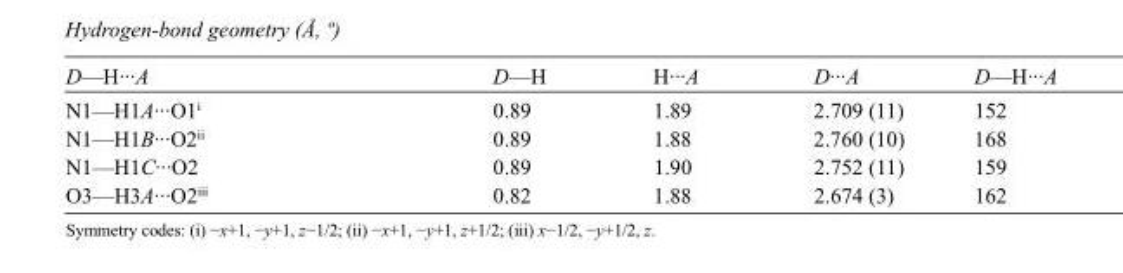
<table><tbody><tr><td>D—H···A</td><td>D—H</td><td>H···A</td><td>D···A</td><td>D—H···A</td></tr><tr><td>N1—H1A···O1<sup>i</sup></td><td>0.89</td><td>1.89</td><td>2.709 (11)</td><td>152</td></tr><tr><td>N1—H1B···O2<sup>ii</sup></td><td>0.89</td><td>1.88</td><td>2.760 (10)</td><td>168</td></tr><tr><td>N1—H1C···O2</td><td>0.89</td><td>1.90</td><td>2.752 (11)</td><td>159</td></tr><tr><td>O3—H3A···O2<sup>iii</sup></td><td>0.82</td><td>1.88</td><td>2.674 (3)</td><td>162</td></tr></tbody></table>